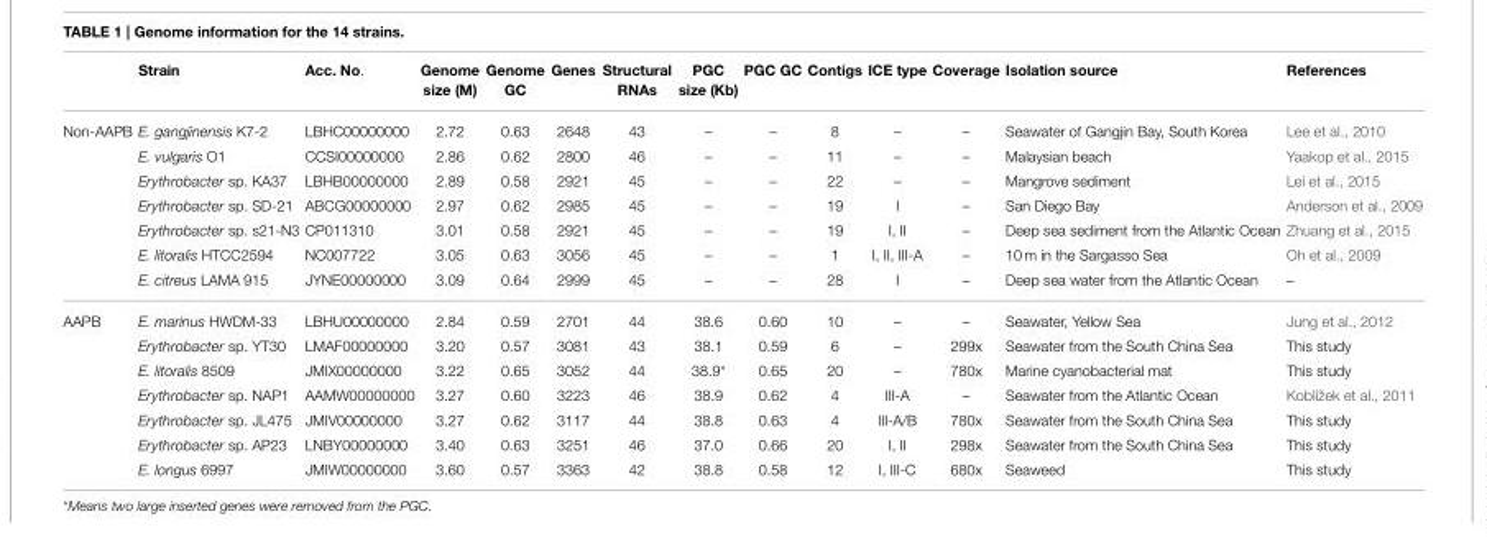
<table><thead><tr><td></td><td>Strain</td><td>Acc. No.</td><td>Genome size (M)</td><td>Genome GC</td><td>Genes</td><td>Structural RNAs</td><td>PGC size (Kb)</td><td>PGC GC</td><td>Contigs</td><td>ICE type</td><td>Coverage</td><td>Isolation source</td><td>References</td></tr></thead><tbody><tr><td rowspan="7">Non-AAPB</td><td>E. gangjinensis K7-2</td><td>LBHC00000000</td><td>2.72</td><td>0.63</td><td>2648</td><td>43</td><td>–</td><td>–</td><td>8</td><td>–</td><td>–</td><td>Seawater of Gangjin Bay, South Korea</td><td>Lee et al., 2010</td></tr><tr><td>E. vulgaris O1</td><td>CCSI00000000</td><td>2.86</td><td>0.62</td><td>2800</td><td>46</td><td>–</td><td>–</td><td>11</td><td>–</td><td>–</td><td>Malaysian beach</td><td>Yaakop et al., 2015</td></tr><tr><td>Erythrobacter sp. KA37</td><td>LBHB00000000</td><td>2.89</td><td>0.58</td><td>2921</td><td>45</td><td>–</td><td>–</td><td>22</td><td>–</td><td>–</td><td>Mangrove sediment</td><td>Lei et al., 2015</td></tr><tr><td>Erythrobacter sp. SD-21</td><td>ABCG00000000</td><td>2.97</td><td>0.62</td><td>2985</td><td>45</td><td>–</td><td>–</td><td>19</td><td>I</td><td>–</td><td>San Diego Bay</td><td>Anderson et al., 2009</td></tr><tr><td>Erythrobacter sp. s21-N3</td><td>CP011310</td><td>3.01</td><td>0.58</td><td>2921</td><td>45</td><td>–</td><td>–</td><td>19</td><td>I, II</td><td>–</td><td>Deep sea sediment from the Atlantic Ocean</td><td>Zhuang et al., 2015</td></tr><tr><td>E. litoralis HTCC2594</td><td>NC007722</td><td>3.05</td><td>0.63</td><td>3056</td><td>45</td><td>–</td><td>–</td><td>1</td><td>I, II, III-A</td><td>–</td><td>10 m in the Sargasso Sea</td><td>Oh et al., 2009</td></tr><tr><td>E. citreus LAMA 915</td><td>JYNE00000000</td><td>3.09</td><td>0.64</td><td>2999</td><td>45</td><td>–</td><td>–</td><td>28</td><td>I</td><td>–</td><td>Deep sea water from the Atlantic Ocean</td><td>–</td></tr><tr><td rowspan="7">AAPB</td><td>E. marinus HWDM-33</td><td>LBHU00000000</td><td>2.84</td><td>0.59</td><td>2701</td><td>44</td><td>38.6</td><td>0.60</td><td>10</td><td>–</td><td>–</td><td>Seawater, Yellow Sea</td><td>Jung et al., 2012</td></tr><tr><td>Erythrobacter sp. YT30</td><td>LMAF00000000</td><td>3.20</td><td>0.57</td><td>3081</td><td>43</td><td>38.1</td><td>0.59</td><td>6</td><td>–</td><td>299x</td><td>Seawater from the South China Sea</td><td>This study</td></tr><tr><td>E. litoralis 8509</td><td>JMIX00000000</td><td>3.22</td><td>0.65</td><td>3052</td><td>44</td><td>38.9*</td><td>0.65</td><td>20</td><td>–</td><td>780x</td><td>Marine cyanobacterial mat</td><td>This study</td></tr><tr><td>Erythrobacter sp. NAP1</td><td>AAMW00000000</td><td>3.27</td><td>0.60</td><td>3223</td><td>46</td><td>38.9</td><td>0.62</td><td>4</td><td>III-A</td><td>–</td><td>Seawater from the Atlantic Ocean</td><td>Koblížek et al., 2011</td></tr><tr><td>Erythrobacter sp. JL475</td><td>JMIV00000000</td><td>3.27</td><td>0.62</td><td>3117</td><td>44</td><td>38.8</td><td>0.63</td><td>4</td><td>III-A/B</td><td>780x</td><td>Seawater from the South China Sea</td><td>This study</td></tr><tr><td>Erythrobacter sp. AP23</td><td>LNBY00000000</td><td>3.40</td><td>0.63</td><td>3251</td><td>46</td><td>37.0</td><td>0.66</td><td>20</td><td>I, II</td><td>298x</td><td>Seawater from the South China Sea</td><td>This study</td></tr><tr><td>E. longus 6997</td><td>JMIW00000000</td><td>3.60</td><td>0.57</td><td>3363</td><td>42</td><td>38.8</td><td>0.58</td><td>12</td><td>I, III-C</td><td>680x</td><td>Seaweed</td><td>This study</td></tr></tbody></table>